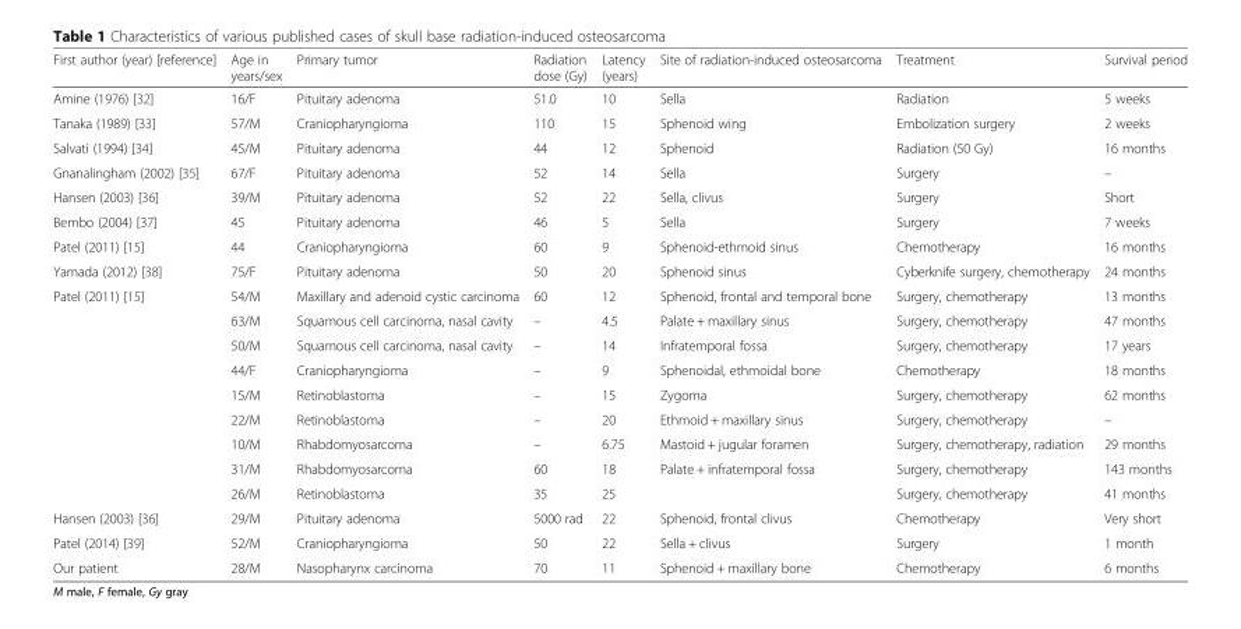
<table><thead><tr><td>First author (year) [reference]</td><td>Age in years/sex</td><td>Primary tumor</td><td>Radiation dose (Gy)</td><td>Latency (years)</td><td>Site of radiation-induced osteosarcoma</td><td>Treatment</td><td>Survival period</td></tr></thead><tbody><tr><td>Amine (1976) [32]</td><td>16/F</td><td>Pituitary adenoma</td><td>51.0</td><td>10</td><td>Sella</td><td>Radiation</td><td>5 weeks</td></tr><tr><td>Tanaka (1989) [33]</td><td>57/M</td><td>Craniopharyngioma</td><td>110</td><td>15</td><td>Sphenoid wing</td><td>Embolization surgery</td><td>2 weeks</td></tr><tr><td>Salvati (1994) [34]</td><td>45/M</td><td>Pituitary adenoma</td><td>44</td><td>12</td><td>Sphenoid</td><td>Radiation (50 Gy)</td><td>16 months</td></tr><tr><td>Gnanalingham (2002) [35]</td><td>67/F</td><td>Pituitary adenoma</td><td>52</td><td>14</td><td>Sella</td><td>Surgery</td><td>–</td></tr><tr><td>Hansen (2003) [36]</td><td>39/M</td><td>Pituitary adenoma</td><td>52</td><td>22</td><td>Sella, clivus</td><td>Surgery</td><td>Short</td></tr><tr><td>Bembo (2004) [37]</td><td>45</td><td>Pituitary adenoma</td><td>46</td><td>5</td><td>Sella</td><td>Surgery</td><td>7 weeks</td></tr><tr><td>Patel (2011) [15]</td><td>44</td><td>Craniopharyngioma</td><td>60</td><td>9</td><td>Sphenoid-ethmoid sinus</td><td>Chemotherapy</td><td>16 months</td></tr><tr><td>Yamada (2012) [38]</td><td>75/F</td><td>Pituitary adenoma</td><td>50</td><td>20</td><td>Sphenoid sinus</td><td>Cyberknife surgery, chemotherapy</td><td>24 months</td></tr><tr><td rowspan="9">Patel (2011) [15]</td><td>54/M</td><td>Maxillary and adenoid cystic carcinoma</td><td>60</td><td>12</td><td>Sphenoid, frontal and temporal bone</td><td>Surgery, chemotherapy</td><td>13 months</td></tr><tr><td>63/M</td><td>Squamous cell carcinoma, nasal cavity</td><td>–</td><td>4.5</td><td>Palate + maxillary sinus</td><td>Surgery, chemotherapy</td><td>47 months</td></tr><tr><td>50/M</td><td>Squamous cell carcinoma, nasal cavity</td><td>–</td><td>14</td><td>Infratemporal fossa</td><td>Surgery, chemotherapy</td><td>17 years</td></tr><tr><td>44/F</td><td>Craniopharyngioma</td><td>–</td><td>9</td><td>Sphenoidal, ethmoidal bone</td><td>Chemotherapy</td><td>18 months</td></tr><tr><td>15/M</td><td>Retinoblastoma</td><td>–</td><td>15</td><td>Zygoma</td><td>Surgery, chemotherapy</td><td>62 months</td></tr><tr><td>22/M</td><td>Retinoblastoma</td><td>–</td><td>20</td><td>Ethmoid + maxillary sinus</td><td>Surgery, chemotherapy</td><td>–</td></tr><tr><td>10/M</td><td>Rhabdomyosarcoma</td><td>–</td><td>6.75</td><td>Mastoid + jugular foramen</td><td>Surgery, chemotherapy, radiation</td><td>29 months</td></tr><tr><td>31/M</td><td>Rhabdomyosarcoma</td><td>60</td><td>18</td><td>Palate + infratemporal fossa</td><td>Surgery, chemotherapy</td><td>143 months</td></tr><tr><td>26/M</td><td>Retinoblastoma</td><td>35</td><td>25</td><td></td><td>Surgery, chemotherapy</td><td>41 months</td></tr><tr><td>Hansen (2003) [36]</td><td>29/M</td><td>Pituitary adenoma</td><td>5000 rad</td><td>22</td><td>Sphenoid, frontal clivus</td><td>Chemotherapy</td><td>Very short</td></tr><tr><td>Patel (2014) [39]</td><td>52/M</td><td>Craniopharyngioma</td><td>50</td><td>22</td><td>Sella + clivus</td><td>Surgery</td><td>1 month</td></tr><tr><td>Our patient</td><td>28/M</td><td>Nasopharynx carcinoma</td><td>70</td><td>11</td><td>Sphenoid + maxillary bone</td><td>Chemotherapy</td><td>6 months</td></tr></tbody></table>